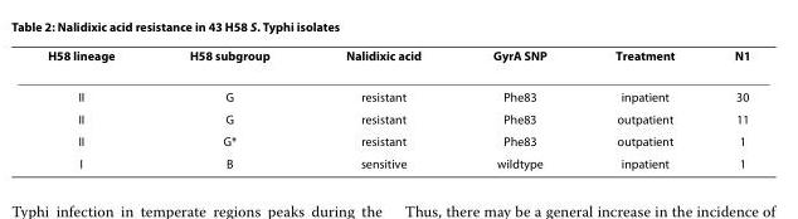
<table><thead><tr><td>H58 lineage</td><td>H58 subgroup</td><td>Nalidixic acid</td><td>GyrA SNP</td><td>Treatment</td><td>N1</td></tr></thead><tbody><tr><td>II</td><td>G</td><td>resistant</td><td>Phe83</td><td>inpatient</td><td>30</td></tr><tr><td>II</td><td>G</td><td>resistant</td><td>Phe83</td><td>outpatient</td><td>11</td></tr><tr><td>II</td><td>G*</td><td>resistant</td><td>Phe83</td><td>outpatient</td><td>1</td></tr><tr><td>I</td><td>B</td><td>sensitive</td><td>wildtype</td><td>inpatient</td><td>1</td></tr></tbody></table>